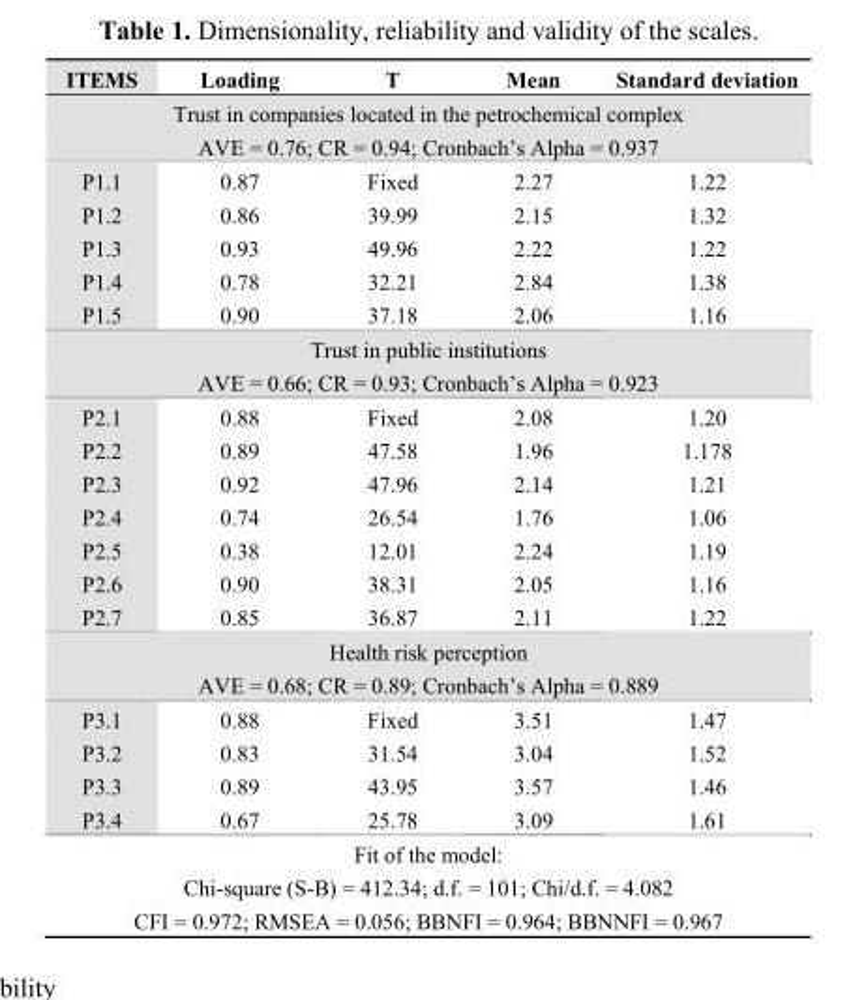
<table><thead><tr><td>ITEMS</td><td>Loading</td><td>T</td><td>Mean</td><td>Standard deviation</td></tr></thead><tbody><tr><td colspan="5">Trust in companies located in the petrochemical complex</td></tr><tr><td colspan="5">AVE = 0.76; CR = 0.94; Cronbach’s Alpha = 0.937</td></tr><tr><td>P1.1</td><td>0.87</td><td>Fixed</td><td>2.27</td><td>1.22</td></tr><tr><td>P1.2</td><td>0.86</td><td>39.99</td><td>2.15</td><td>1.32</td></tr><tr><td>P1.3</td><td>0.93</td><td>49.96</td><td>2.22</td><td>1.22</td></tr><tr><td>P1.4</td><td>0.78</td><td>32.21</td><td>2.84</td><td>1.38</td></tr><tr><td>P1.5</td><td>0.90</td><td>37.18</td><td>2.06</td><td>1.16</td></tr><tr><td colspan="5">Trust in public institutions</td></tr><tr><td colspan="5">AVE = 0.66; CR = 0.93; Cronbach’s Alpha = 0.923</td></tr><tr><td>P2.1</td><td>0.88</td><td>Fixed</td><td>2.08</td><td>1.20</td></tr><tr><td>P2.2</td><td>0.89</td><td>47.58</td><td>1.96</td><td>1.178</td></tr><tr><td>P2.3</td><td>0.92</td><td>47.96</td><td>2.14</td><td>1.21</td></tr><tr><td>P2.4</td><td>0.74</td><td>26.54</td><td>1.76</td><td>1.06</td></tr><tr><td>P2.5</td><td>0.38</td><td>12.01</td><td>2.24</td><td>1.19</td></tr><tr><td>P2.6</td><td>0.90</td><td>38.31</td><td>2.05</td><td>1.16</td></tr><tr><td>P2.7</td><td>0.85</td><td>36.87</td><td>2.11</td><td>1.22</td></tr><tr><td colspan="5">Health risk perception</td></tr><tr><td colspan="5">AVE = 0.68; CR = 0.89; Cronbach’s Alpha = 0.889</td></tr><tr><td>P3.1</td><td>0.88</td><td>Fixed</td><td>3.51</td><td>1.47</td></tr><tr><td>P3.2</td><td>0.83</td><td>31.54</td><td>3.04</td><td>1.52</td></tr><tr><td>P3.3</td><td>0.89</td><td>43.95</td><td>3.57</td><td>1.46</td></tr><tr><td>P3.4</td><td>0.67</td><td>25.78</td><td>3.09</td><td>1.61</td></tr><tr><td colspan="5">Fit of the model:</td></tr><tr><td colspan="5">Chi-square (S-B) = 412.34; d.f. = 101; Chi/d.f. = 4.082</td></tr><tr><td colspan="5">CFI = 0.972; RMSEA = 0.056; BBNFI = 0.964; BBNNFI = 0.967</td></tr></tbody></table>